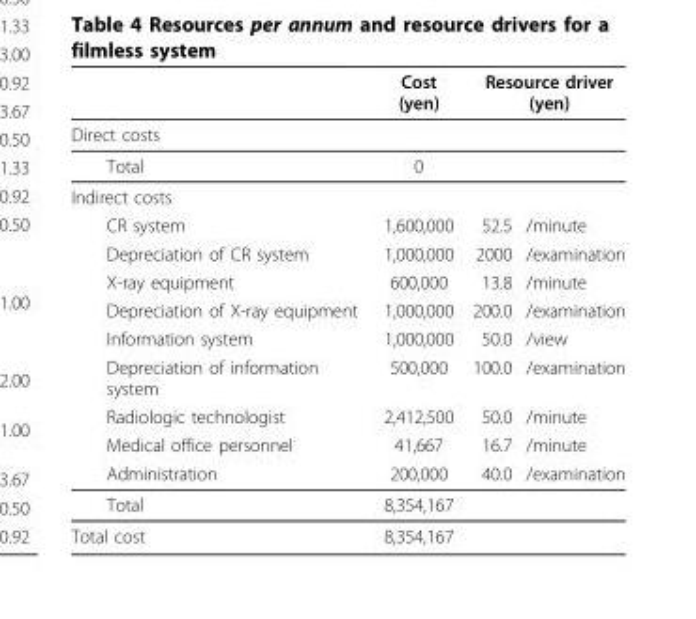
<table><thead><tr><td rowspan="2">Direct costs</td><td rowspan="2">Cost (yen)</td><td colspan="2">Resource driver (yen)</td></tr><tr><td></td><td></td></tr></thead><tbody><tr><td>Total</td><td>0</td><td></td><td></td></tr><tr><td colspan="4">Indirect costs</td></tr><tr><td>CR system</td><td>1,600,000</td><td>52.5</td><td>/minute</td></tr><tr><td>Depreciation of CR system</td><td>1,000,000</td><td>2000</td><td>/examination</td></tr><tr><td>X-ray equipment</td><td>600,000</td><td>13.8</td><td>/minute</td></tr><tr><td>Depreciation of X-ray equipment</td><td>1,000,000</td><td>200.0</td><td>/examination</td></tr><tr><td>Information system</td><td>1,000,000</td><td>50.0</td><td>/view</td></tr><tr><td>Depreciation of information system</td><td>500,000</td><td>100.0</td><td>/examination</td></tr><tr><td>Radiologic technologist</td><td>2,412,500</td><td>50.0</td><td>/minute</td></tr><tr><td>Medical office personnel</td><td>41,667</td><td>16.7</td><td>/minute</td></tr><tr><td>Administration</td><td>200,000</td><td>40.0</td><td>/examination</td></tr><tr><td>Total</td><td>8,354,167</td><td></td><td></td></tr><tr><td>Total cost</td><td>8,354,167</td><td></td><td></td></tr></tbody></table>